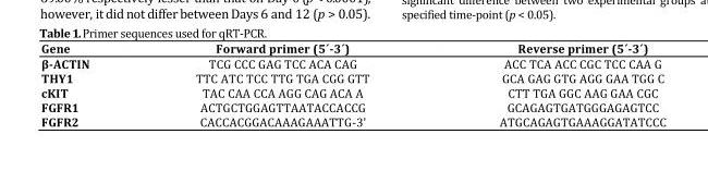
<table><thead><tr><td>Gene</td><td>Forward primer (5´-3´)</td><td>Reverse primer (5´-3´)</td></tr></thead><tbody><tr><td>β-ACTIN</td><td>TCG CCC GAG TCC ACA CAG</td><td>ACC TCA ACC CGC TCC CAA G</td></tr><tr><td>THY1</td><td>TTC ATC TCC TTG TGA CGG GTT</td><td>GCA GAG GTG AGG GAA TGG C</td></tr><tr><td>cKIT</td><td>TAC CAA CCA AGG CAG ACA A</td><td>CTT TGA GGC AAG GAA CGC</td></tr><tr><td>FGFR1</td><td>ACTGCTGGAGTTAATACCACCG</td><td>GCAGAGTGATGGGAGAGTCC</td></tr><tr><td>FGFR2</td><td>CACCACGGACAAAGAAATTG-3&#x27;</td><td>ATGCAGAGTGAAAGGATATCCC</td></tr></tbody></table>